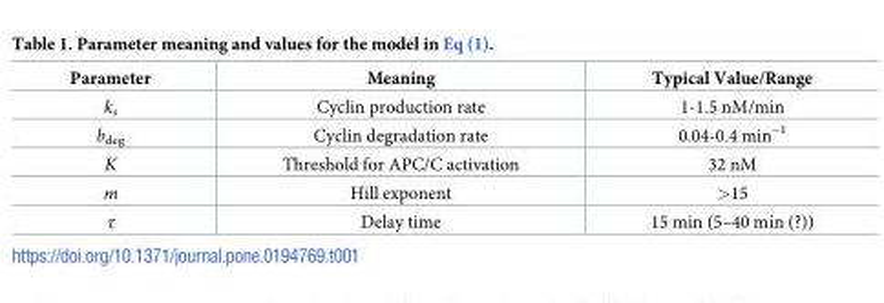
<table><thead><tr><td>Parameter</td><td>Meaning</td><td>Typical Value/Range</td></tr></thead><tbody><tr><td>k<sub>s</sub></td><td>Cyclin production rate</td><td>1-1.5 nM/min</td></tr><tr><td>b<sub>deg</sub></td><td>Cyclin degradation rate</td><td>0.04-0.4 min<sup>−1</sup></td></tr><tr><td>K</td><td>Threshold for APC/C activation</td><td>32 nM</td></tr><tr><td>m</td><td>Hill exponent</td><td>&gt;15</td></tr><tr><td>τ</td><td>Delay time</td><td>15 min (5–40 min (?))</td></tr></tbody></table>